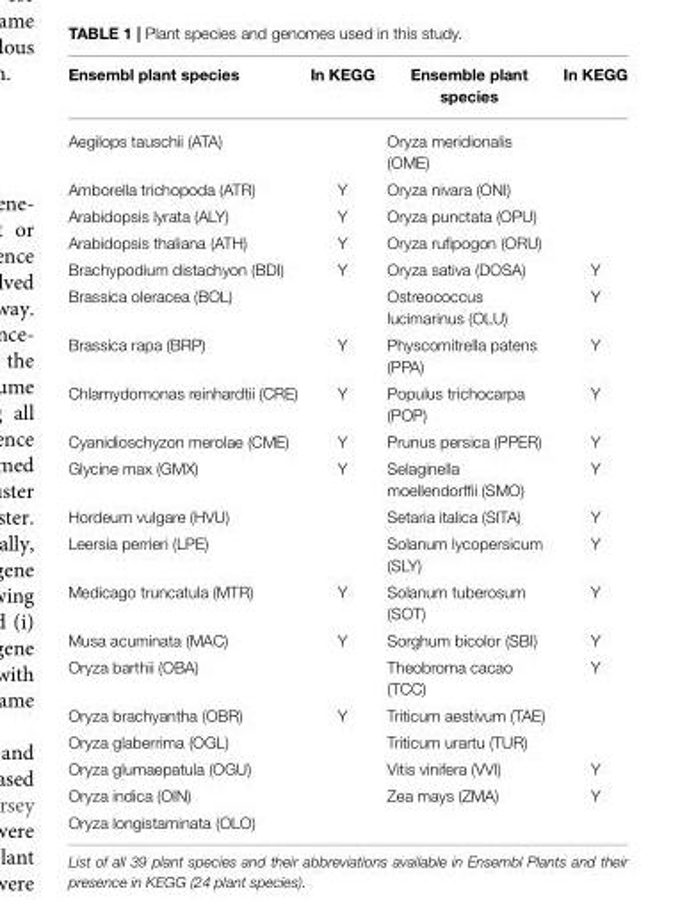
<table><thead><tr><td>Ensembl plant species</td><td>In KEGG</td><td>Ensemble plant species</td><td>In KEGG</td></tr></thead><tbody><tr><td>Aegilops tauschii (ATA)</td><td></td><td>Oryza meridionalis (OME)</td><td></td></tr><tr><td>Amborella trichopoda (ATR)</td><td>Y</td><td>Oryza nivara (ONI)</td><td></td></tr><tr><td>Arabidopsis lyrata (ALY)</td><td>Y</td><td>Oryza punctata (OPU)</td><td></td></tr><tr><td>Arabidopsis thaliana (ATH)</td><td>Y</td><td>Oryza rufipogon (ORU)</td><td></td></tr><tr><td>Brachypodium distachyon (BDI)</td><td>Y</td><td>Oryza sativa (DOSA)</td><td>Y</td></tr><tr><td>Brassica oleracea (BOL)</td><td></td><td>Ostreococcus lucimarinus (OLU)</td><td>Y</td></tr><tr><td>Brassica rapa (BRP)</td><td>Y</td><td>Physcomitrella patens (PPA)</td><td>Y</td></tr><tr><td>Chlamydomonas reinhardtii (CRE)</td><td>Y</td><td>Populus trichocarpa (POP)</td><td>Y</td></tr><tr><td>Cyanidioschyzon merolae (CME)</td><td>Y</td><td>Prunus persica (PPER)</td><td>Y</td></tr><tr><td>Glycine max (GMX)</td><td>Y</td><td>Selaginella moellendorffii (SMO)</td><td>Y</td></tr><tr><td>Hordeum vulgare (HVU)</td><td></td><td>Setaria italica (SITA)</td><td>Y</td></tr><tr><td>Leersia perrieri (LPE)</td><td></td><td>Solanum lycopersicum (SLY)</td><td>Y</td></tr><tr><td>Medicago truncatula (MTR)</td><td>Y</td><td>Solanum tuberosum (SOT)</td><td>Y</td></tr><tr><td>Musa acuminata (MAC)</td><td>Y</td><td>Sorghum bicolor (SBI)</td><td>Y</td></tr><tr><td>Oryza barthii (OBA)</td><td></td><td>Theobroma cacao (TCC)</td><td>Y</td></tr><tr><td>Oryza brachyantha (OBR)</td><td>Y</td><td>Triticum aestivum (TAE)</td><td></td></tr><tr><td>Oryza glaberrima (OGL)</td><td></td><td>Triticum urartu (TUR)</td><td></td></tr><tr><td>Oryza glumaepatula (OGU)</td><td></td><td>Vitis vinifera (VVI)</td><td>Y</td></tr><tr><td>Oryza indica (OIN)</td><td></td><td>Zea mays (ZMA)</td><td>Y</td></tr><tr><td>Oryza longistaminata (OLO)</td><td></td><td></td><td></td></tr></tbody></table>